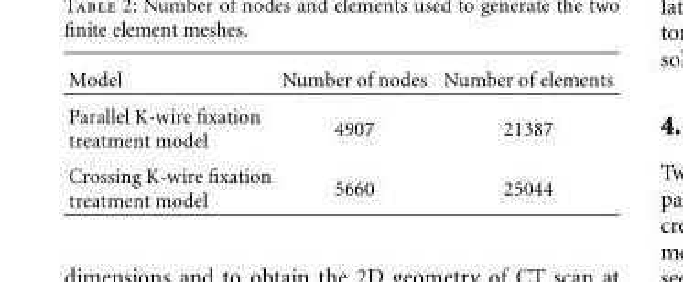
<table><thead><tr><td>Model</td><td>Number of nodes</td><td>Number of elements</td></tr></thead><tbody><tr><td>Parallel K-wire fixation treatment model</td><td>4907</td><td>21387</td></tr><tr><td>Crossing K-wire fixation treatment model</td><td>5660</td><td>25044</td></tr></tbody></table>